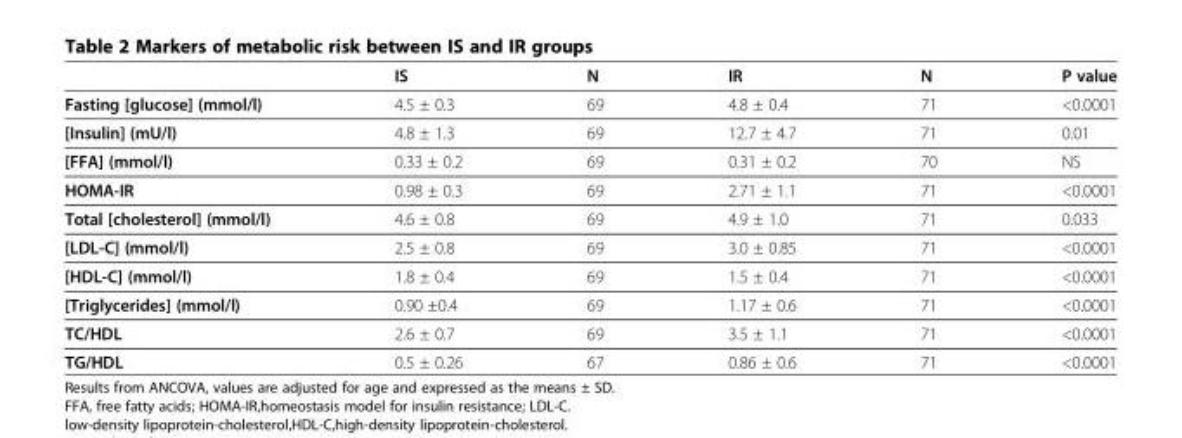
<table><thead><tr><td></td><td>IS</td><td>N</td><td>IR</td><td>N</td><td>P value</td></tr></thead><tbody><tr><td>Fasting [glucose] (mmol/l)</td><td>4.5 ± 0.3</td><td>69</td><td>4.8 ± 0.4</td><td>71</td><td>&lt;0.0001</td></tr><tr><td>[Insulin] (mU/l)</td><td>4.8 ± 1.3</td><td>69</td><td>12.7 ± 4.7</td><td>71</td><td>0.01</td></tr><tr><td>[FFA] (mmol/l)</td><td>0.33 ± 0.2</td><td>69</td><td>0.31 ± 0.2</td><td>70</td><td>NS</td></tr><tr><td>HOMA-IR</td><td>0.98 ± 0.3</td><td>69</td><td>2.71 ± 1.1</td><td>71</td><td>&lt;0.0001</td></tr><tr><td>Total [cholesterol] (mmol/l)</td><td>4.6 ± 0.8</td><td>69</td><td>4.9 ± 1.0</td><td>71</td><td>0.033</td></tr><tr><td>[LDL-C] (mmol/l)</td><td>2.5 ± 0.8</td><td>69</td><td>3.0 ± 0.85</td><td>71</td><td>&lt;0.0001</td></tr><tr><td>[HDL-C] (mmol/l)</td><td>1.8 ± 0.4</td><td>69</td><td>1.5 ± 0.4</td><td>71</td><td>&lt;0.0001</td></tr><tr><td>[Triglycerides] (mmol/l)</td><td>0.90 ±0.4</td><td>69</td><td>1.17 ± 0.6</td><td>71</td><td>&lt;0.0001</td></tr><tr><td>TC/HDL</td><td>2.6 ± 0.7</td><td>69</td><td>3.5 ± 1.1</td><td>71</td><td>&lt;0.0001</td></tr><tr><td>TG/HDL</td><td>0.5 ± 0.26</td><td>67</td><td>0.86 ± 0.6</td><td>71</td><td>&lt;0.0001</td></tr></tbody></table>